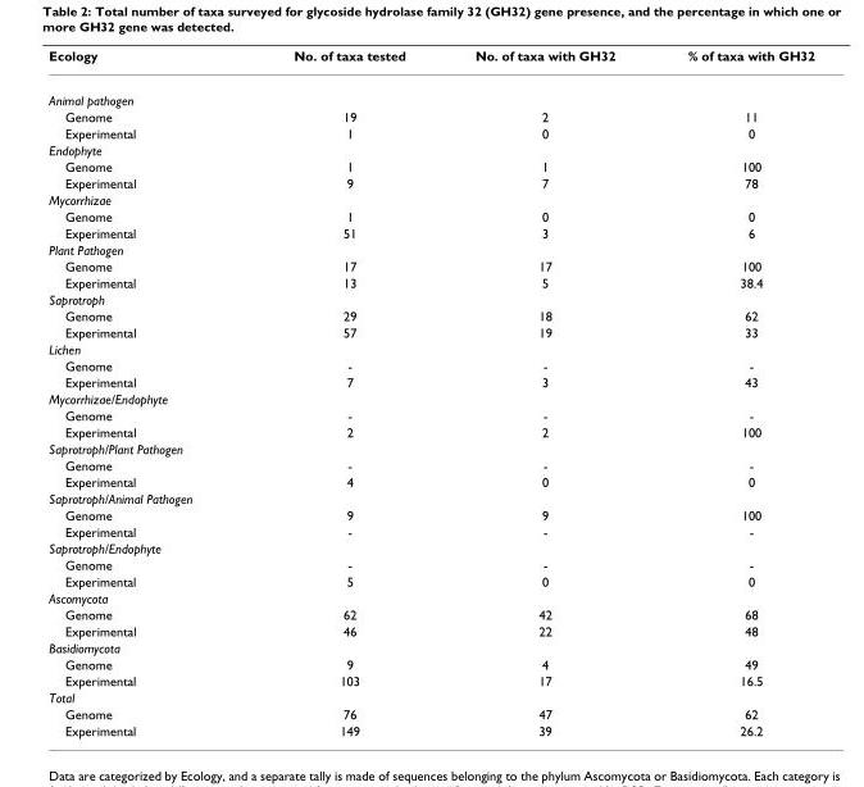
<table><thead><tr><td>Ecology</td><td>No. of taxa tested</td><td>No. of taxa with GH32</td><td>% of taxa with GH32</td></tr></thead><tbody><tr><td colspan="4">Animal pathogen</td></tr><tr><td>Genome</td><td>19</td><td>2</td><td>11</td></tr><tr><td>Experimental</td><td>1</td><td>0</td><td>0</td></tr><tr><td colspan="4">Endophyte</td></tr><tr><td>Genome</td><td>1</td><td>1</td><td>100</td></tr><tr><td>Experimental</td><td>9</td><td>7</td><td>78</td></tr><tr><td colspan="4">Mycorrhizae</td></tr><tr><td>Genome</td><td>1</td><td>0</td><td>0</td></tr><tr><td>Experimental</td><td>51</td><td>3</td><td>6</td></tr><tr><td colspan="4">Plant Pathogen</td></tr><tr><td>Genome</td><td>17</td><td>17</td><td>100</td></tr><tr><td>Experimental</td><td>13</td><td>5</td><td>38.4</td></tr><tr><td colspan="4">Saprotroph</td></tr><tr><td>Genome</td><td>29</td><td>18</td><td>62</td></tr><tr><td>Experimental</td><td>57</td><td>19</td><td>33</td></tr><tr><td colspan="4">Lichen</td></tr><tr><td>Genome</td><td>-</td><td>-</td><td>-</td></tr><tr><td>Experimental</td><td>7</td><td>3</td><td>43</td></tr><tr><td colspan="4">Mycorrhizae/Endophyte</td></tr><tr><td>Genome</td><td>-</td><td>-</td><td>-</td></tr><tr><td>Experimental</td><td>2</td><td>2</td><td>100</td></tr><tr><td colspan="4">Saprotroph/Plant Pathogen</td></tr><tr><td>Genome</td><td>-</td><td>-</td><td>-</td></tr><tr><td>Experimental</td><td>4</td><td>0</td><td>0</td></tr><tr><td colspan="4">Saprotroph/Animal Pathogen</td></tr><tr><td>Genome</td><td>9</td><td>9</td><td>100</td></tr><tr><td>Experimental</td><td>-</td><td>-</td><td>-</td></tr><tr><td colspan="4">Saprotroph/Endophyte</td></tr><tr><td>Genome</td><td>-</td><td>-</td><td>-</td></tr><tr><td>Experimental</td><td>5</td><td>0</td><td>0</td></tr><tr><td colspan="4">Ascomycota</td></tr><tr><td>Genome</td><td>62</td><td>42</td><td>68</td></tr><tr><td>Experimental</td><td>46</td><td>22</td><td>48</td></tr><tr><td colspan="4">Basidiomycota</td></tr><tr><td>Genome</td><td>9</td><td>4</td><td>49</td></tr><tr><td>Experimental</td><td>103</td><td>17</td><td>16.5</td></tr><tr><td colspan="4">Total</td></tr><tr><td>Genome</td><td>76</td><td>47</td><td>62</td></tr><tr><td>Experimental</td><td>149</td><td>39</td><td>26.2</td></tr></tbody></table>